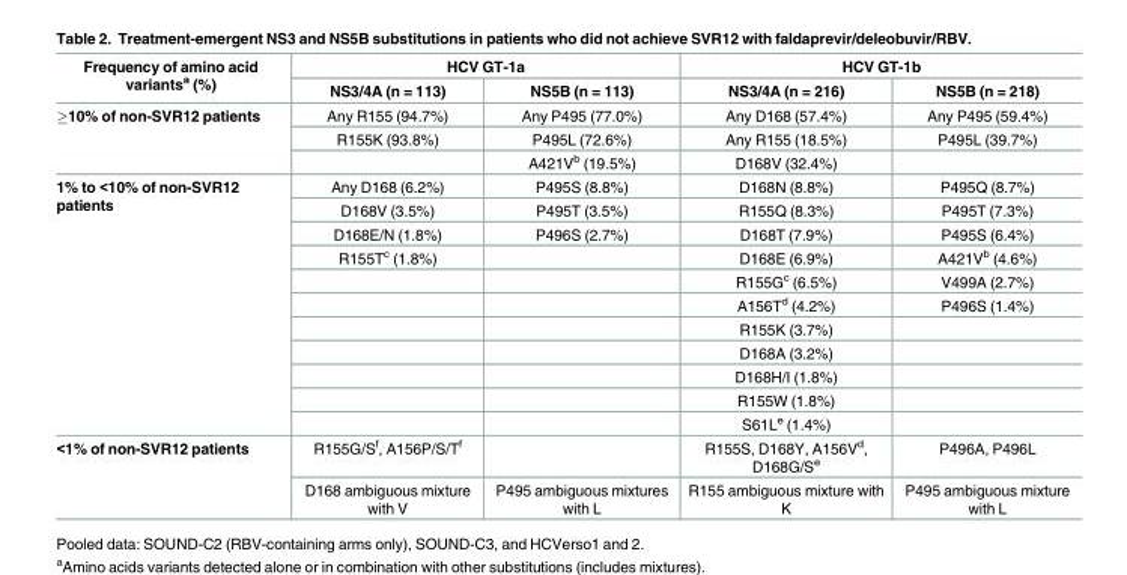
<table><thead><tr><td rowspan="2">Frequency of amino acid variants<sup>a</sup> (%)</td><td colspan="2">HCV GT-1a</td><td colspan="2">HCV GT-1b</td></tr><tr><td>NS3/4A (n = 113)</td><td>NS5B (n = 113)</td><td>NS3/4A (n = 216)</td><td>NS5B (n = 218)</td></tr></thead><tbody><tr><td rowspan="3">≥10% of non-SVR12 patients</td><td>Any R155 (94.7%)</td><td>Any P495 (77.0%)</td><td>Any D168 (57.4%)</td><td>Any P495 (59.4%)</td></tr><tr><td>R155K (93.8%)</td><td>P495L (72.6%)</td><td>Any R155 (18.5%)</td><td>P495L (39.7%)</td></tr><tr><td></td><td>A421V<sup>b</sup> (19.5%)</td><td>D168V (32.4%)</td><td></td></tr><tr><td rowspan="11">1% to &lt;10% of non-SVR12 patients</td><td>Any D168 (6.2%)</td><td>P495S (8.8%)</td><td>D168N (8.8%)</td><td>P495Q (8.7%)</td></tr><tr><td>D168V (3.5%)</td><td>P495T (3.5%)</td><td>R155Q (8.3%)</td><td>P495T (7.3%)</td></tr><tr><td>D168E/N (1.8%)</td><td>P496S (2.7%)</td><td>D168T (7.9%)</td><td>P495S (6.4%)</td></tr><tr><td>R155T<sup>c</sup> (1.8%)</td><td></td><td>D168E (6.9%)</td><td>A421V<sup>b</sup> (4.6%)</td></tr><tr><td></td><td></td><td>R155G<sup>c</sup> (6.5%)</td><td>V499A (2.7%)</td></tr><tr><td></td><td></td><td>A156T<sup>d</sup> (4.2%)</td><td>P496S (1.4%)</td></tr><tr><td></td><td></td><td>R155K (3.7%)</td><td></td></tr><tr><td></td><td></td><td>D168A (3.2%)</td><td></td></tr><tr><td></td><td></td><td>D168H/I (1.8%)</td><td></td></tr><tr><td></td><td></td><td>R155W (1.8%)</td><td></td></tr><tr><td></td><td></td><td>S61L<sup>e</sup> (1.4%)</td><td></td></tr><tr><td rowspan="2">&lt;1% of non-SVR12 patients</td><td>R155G/S<sup>f</sup>, A156P/S/T<sup>f</sup></td><td></td><td>R155S, D168Y, A156V<sup>d</sup>, D168G/S<sup>e</sup></td><td>P496A, P496L</td></tr><tr><td>D168 ambiguous mixture with V</td><td>P495 ambiguous mixtures with L</td><td>R155 ambiguous mixture with K</td><td>P495 ambiguous mixture with L</td></tr></tbody></table>